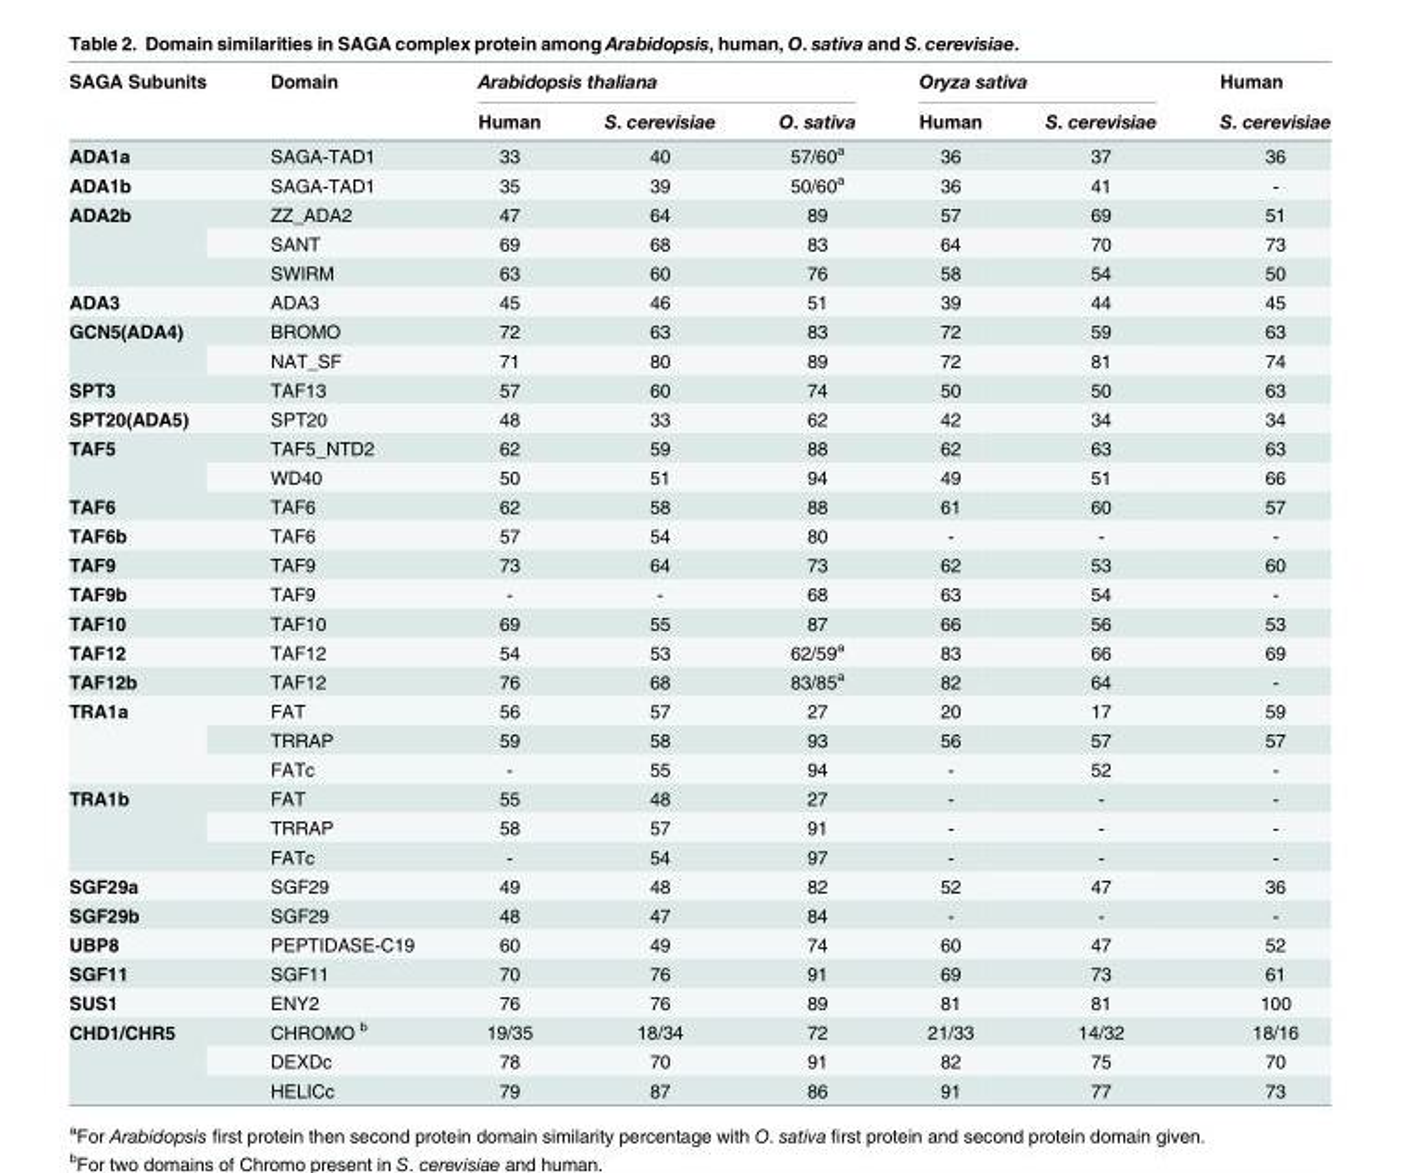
<table><thead><tr><td rowspan="2">SAGA Subunits</td><td rowspan="2">Domain</td><td colspan="3">Arabidopsis thaliana</td><td colspan="2">Oryza sativa</td><td rowspan="2">Human S. cerevisiae</td></tr><tr><td>Human</td><td>S. cerevisiae</td><td>O. sativa</td><td>Human</td><td>S. cerevisiae</td></tr></thead><tbody><tr><td>ADA1a</td><td>SAGA-TAD1</td><td>33</td><td>40</td><td>57/60<sup>a</sup></td><td>36</td><td>37</td><td>36</td></tr><tr><td>ADA1b</td><td>SAGA-TAD1</td><td>35</td><td>39</td><td>50/60<sup>a</sup></td><td>36</td><td>41</td><td>-</td></tr><tr><td rowspan="3">ADA2b</td><td>ZZ_ADA2</td><td>47</td><td>64</td><td>89</td><td>57</td><td>69</td><td>51</td></tr><tr><td>SANT</td><td>69</td><td>68</td><td>83</td><td>64</td><td>70</td><td>73</td></tr><tr><td>SWIRM</td><td>63</td><td>60</td><td>76</td><td>58</td><td>54</td><td>50</td></tr><tr><td>ADA3</td><td>ADA3</td><td>45</td><td>46</td><td>51</td><td>39</td><td>44</td><td>45</td></tr><tr><td rowspan="2">GCN5(ADA4)</td><td>BROMO</td><td>72</td><td>63</td><td>83</td><td>72</td><td>59</td><td>63</td></tr><tr><td>NAT_SF</td><td>71</td><td>80</td><td>89</td><td>72</td><td>81</td><td>74</td></tr><tr><td>SPT3</td><td>TAF13</td><td>57</td><td>60</td><td>74</td><td>50</td><td>50</td><td>63</td></tr><tr><td>SPT20(ADA5)</td><td>SPT20</td><td>48</td><td>33</td><td>62</td><td>42</td><td>34</td><td>34</td></tr><tr><td rowspan="2">TAF5</td><td>TAF5_NTD2</td><td>62</td><td>59</td><td>88</td><td>62</td><td>63</td><td>63</td></tr><tr><td>WD40</td><td>50</td><td>51</td><td>94</td><td>49</td><td>51</td><td>66</td></tr><tr><td>TAF6</td><td>TAF6</td><td>62</td><td>58</td><td>88</td><td>61</td><td>60</td><td>57</td></tr><tr><td>TAF6b</td><td>TAF6</td><td>57</td><td>54</td><td>80</td><td>-</td><td>-</td><td>-</td></tr><tr><td>TAF9</td><td>TAF9</td><td>73</td><td>64</td><td>73</td><td>62</td><td>53</td><td>60</td></tr><tr><td>TAF9b</td><td>TAF9</td><td>-</td><td>-</td><td>68</td><td>63</td><td>54</td><td>-</td></tr><tr><td>TAF10</td><td>TAF10</td><td>69</td><td>55</td><td>87</td><td>66</td><td>56</td><td>53</td></tr><tr><td>TAF12</td><td>TAF12</td><td>54</td><td>53</td><td>62/59<sup>a</sup></td><td>83</td><td>66</td><td>69</td></tr><tr><td>TAF12b</td><td>TAF12</td><td>76</td><td>68</td><td>83/85<sup>a</sup></td><td>82</td><td>64</td><td>-</td></tr><tr><td rowspan="3">TRA1a</td><td>FAT</td><td>56</td><td>57</td><td>27</td><td>20</td><td>17</td><td>59</td></tr><tr><td>TRRAP</td><td>59</td><td>58</td><td>93</td><td>56</td><td>57</td><td>57</td></tr><tr><td>FATc</td><td>-</td><td>55</td><td>94</td><td>-</td><td>52</td><td>-</td></tr><tr><td rowspan="3">TRA1b</td><td>FAT</td><td>55</td><td>48</td><td>27</td><td>-</td><td>-</td><td>-</td></tr><tr><td>TRRAP</td><td>58</td><td>57</td><td>91</td><td>-</td><td>-</td><td>-</td></tr><tr><td>FATc</td><td>-</td><td>54</td><td>97</td><td>-</td><td>-</td><td>-</td></tr><tr><td>SGF29a</td><td>SGF29</td><td>49</td><td>48</td><td>82</td><td>52</td><td>47</td><td>36</td></tr><tr><td>SGF29b</td><td>SGF29</td><td>48</td><td>47</td><td>84</td><td>-</td><td>-</td><td>-</td></tr><tr><td>UBP8</td><td>PEPTIDASE-C19</td><td>60</td><td>49</td><td>74</td><td>60</td><td>47</td><td>52</td></tr><tr><td>SGF11</td><td>SGF11</td><td>70</td><td>76</td><td>91</td><td>69</td><td>73</td><td>61</td></tr><tr><td>SUS1</td><td>ENY2</td><td>76</td><td>76</td><td>89</td><td>81</td><td>81</td><td>100</td></tr><tr><td rowspan="3">CHD1/CHR5</td><td>CHROMO <sup>b</sup></td><td>19/35</td><td>18/34</td><td>72</td><td>21/33</td><td>14/32</td><td>18/16</td></tr><tr><td>DEXDc</td><td>78</td><td>70</td><td>91</td><td>82</td><td>75</td><td>70</td></tr><tr><td>HELICc</td><td>79</td><td>87</td><td>86</td><td>91</td><td>77</td><td>73</td></tr></tbody></table>